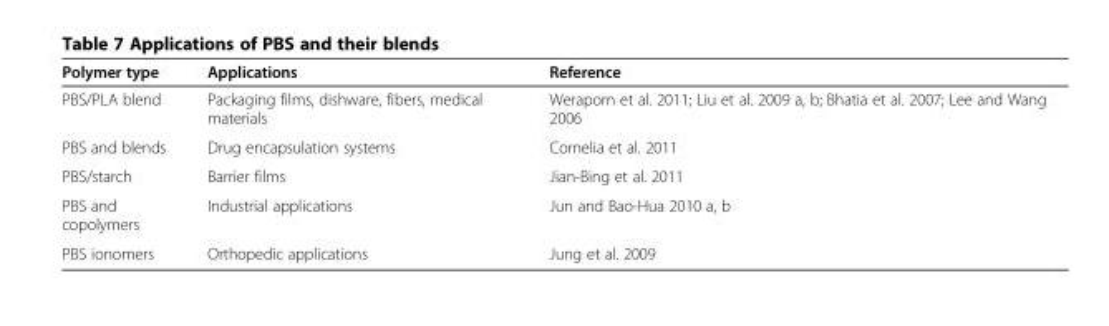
<table><thead><tr><td>Polymer type</td><td>Applications</td><td>Reference</td></tr></thead><tbody><tr><td>PBS/PLA blend</td><td>Packaging films, dishware, fibers, medical materials</td><td>Weraporn et al. 2011; Liu et al. 2009 a, b; Bhatia et al. 2007; Lee and Wang 2006</td></tr><tr><td>PBS and blends</td><td>Drug encapsulation systems</td><td>Cornelia et al. 2011</td></tr><tr><td>PBS/starch</td><td>Barrier films</td><td>Jian-Bing et al. 2011</td></tr><tr><td>PBS and copolymers</td><td>Industrial applications</td><td>Jun and Bao-Hua 2010 a, b</td></tr><tr><td>PBS ionomers</td><td>Orthopedic applications</td><td>Jung et al. 2009</td></tr></tbody></table>